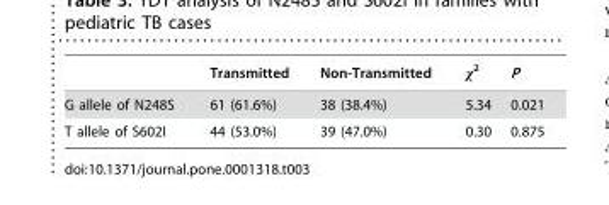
<table><thead><tr><td></td><td>Transmitted</td><td>Non-Transmitted</td><td>χ<sup>2</sup></td><td>P</td></tr></thead><tbody><tr><td>G allele of N248S</td><td>61 (61.6%)</td><td>38 (38.4%)</td><td>5.34</td><td>0.021</td></tr><tr><td>T allele of S602I</td><td>44 (53.0%)</td><td>39 (47.0%)</td><td>0.30</td><td>0.875</td></tr></tbody></table>